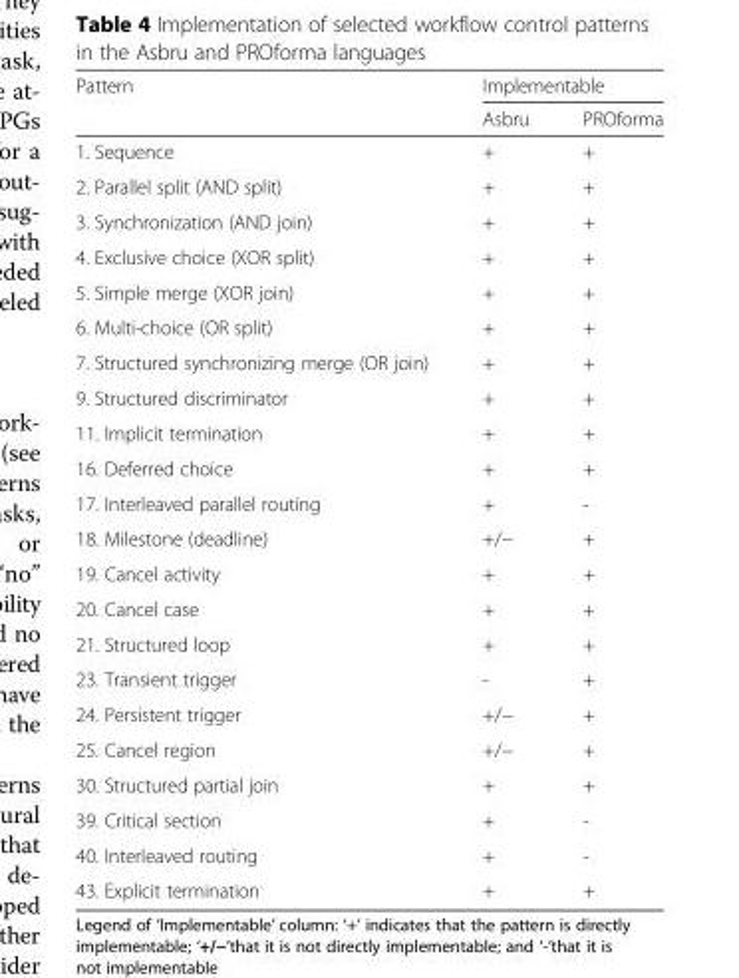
<table><thead><tr><td rowspan="2">Pattern</td><td colspan="2">Implementable</td></tr><tr><td>Asbru</td><td>PROforma</td></tr></thead><tbody><tr><td>1. Sequence</td><td>+</td><td>+</td></tr><tr><td>2. Parallel split (AND split)</td><td>+</td><td>+</td></tr><tr><td>3. Synchronization (AND join)</td><td>+</td><td>+</td></tr><tr><td>4. Exclusive choice (XOR split)</td><td>+</td><td>+</td></tr><tr><td>5. Simple merge (XOR join)</td><td>+</td><td>+</td></tr><tr><td>6. Multi-choice (OR split)</td><td>+</td><td>+</td></tr><tr><td>7. Structured synchronizing merge (OR join)</td><td>+</td><td>+</td></tr><tr><td>9. Structured discriminator</td><td>+</td><td>+</td></tr><tr><td>11. Implicit termination</td><td>+</td><td>+</td></tr><tr><td>16. Deferred choice</td><td>+</td><td>+</td></tr><tr><td>17. Interleaved parallel routing</td><td>+</td><td>-</td></tr><tr><td>18. Milestone (deadline)</td><td>+/−</td><td>+</td></tr><tr><td>19. Cancel activity</td><td>+</td><td>+</td></tr><tr><td>20. Cancel case</td><td>+</td><td>+</td></tr><tr><td>21. Structured loop</td><td>+</td><td>+</td></tr><tr><td>23. Transient trigger</td><td>-</td><td>+</td></tr><tr><td>24. Persistent trigger</td><td>+/−</td><td>+</td></tr><tr><td>25. Cancel region</td><td>+/−</td><td>+</td></tr><tr><td>30. Structured partial join</td><td>+</td><td>+</td></tr><tr><td>39. Critical section</td><td>+</td><td>-</td></tr><tr><td>40. Interleaved routing</td><td>+</td><td>-</td></tr><tr><td>43. Explicit termination</td><td>+</td><td>+</td></tr></tbody></table>